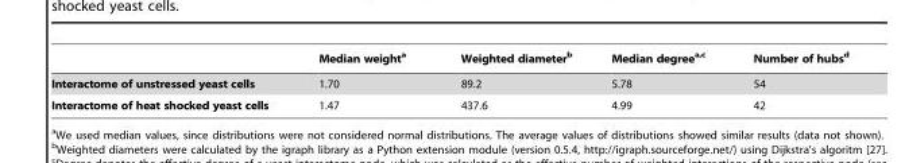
<table><thead><tr><td></td><td>Median weight<sup>a</sup></td><td>Weighted diameter<sup>b</sup></td><td>Median degree<sup>a,</sup>c</td><td>Number of hubs<sup>d</sup></td></tr></thead><tbody><tr><td>Interactome of unstressed yeast cells</td><td>1.70</td><td>89.2</td><td>5.78</td><td>54</td></tr><tr><td>Interactome of heat shocked yeast cells</td><td>1.47</td><td>437.6</td><td>4.99</td><td>42</td></tr></tbody></table>